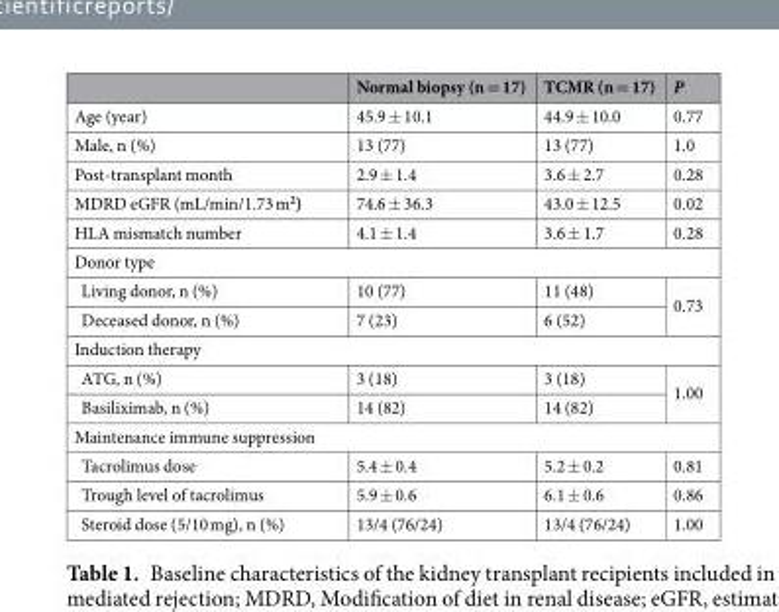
<table><thead><tr><td></td><td>Normal biopsy (n = 17)</td><td>TCMR (n = 17)</td><td>P</td></tr></thead><tbody><tr><td>Age (year)</td><td>45.9 ± 10.1</td><td>44.9 ± 10.0</td><td>0.77</td></tr><tr><td>Male, n (%)</td><td>13 (77)</td><td>13 (77)</td><td>1.0</td></tr><tr><td>Post-transplant month</td><td>2.9 ± 1.4</td><td>3.6 ± 2.7</td><td>0.28</td></tr><tr><td>MDRD eGFR (mL/min/1.73 m<sup>2</sup>)</td><td>74.6 ± 36.3</td><td>43.0 ± 12.5</td><td>0.02</td></tr><tr><td>HLA mismatch number</td><td>4.1 ± 1.4</td><td>3.6 ± 1.7</td><td>0.28</td></tr><tr><td colspan="4">Donor type</td></tr><tr><td>Living donor, n (%)</td><td>10 (77)</td><td>11 (48)</td><td rowspan="2">0.73</td></tr><tr><td>Deceased donor, n (%)</td><td>7 (23)</td><td>6 (52)</td></tr><tr><td colspan="4">Induction therapy</td></tr><tr><td>ATG, n (%)</td><td>3 (18)</td><td>3 (18)</td><td rowspan="2">1.00</td></tr><tr><td>Basiliximab, n (%)</td><td>14 (82)</td><td>14 (82)</td></tr><tr><td colspan="4">Maintenance immune suppression</td></tr><tr><td>Tacrolimus dose</td><td>5.4 ± 0.4</td><td>5.2 ± 0.2</td><td>0.81</td></tr><tr><td>Trough level of tacrolimus</td><td>5.9 ± 0.6</td><td>6.1 ± 0.6</td><td>0.86</td></tr><tr><td>Steroid dose (5/10 mg), n (%)</td><td>13/4 (76/24)</td><td>13/4 (76/24)</td><td>1.00</td></tr></tbody></table>